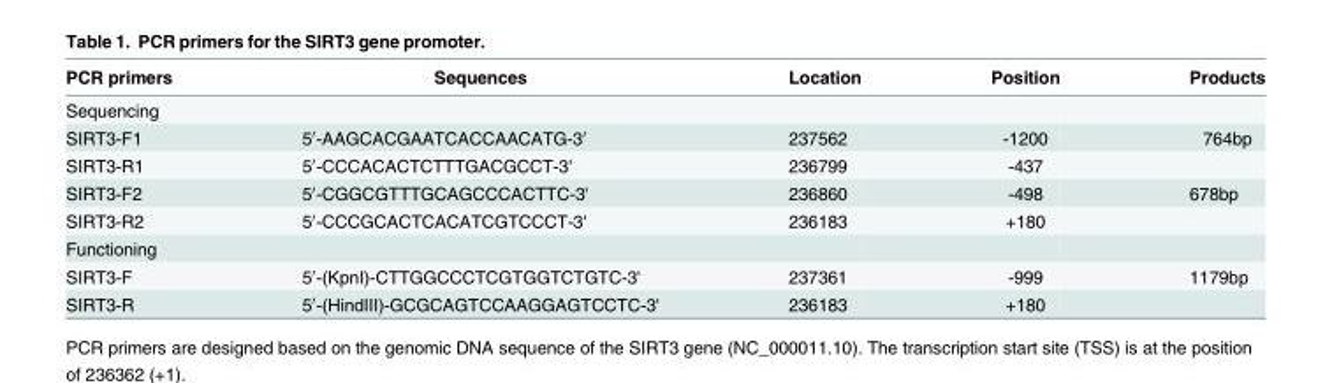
<table><thead><tr><td>PCR primers</td><td>Sequences</td><td>Location</td><td>Position</td><td>Products</td></tr></thead><tbody><tr><td colspan="5">Sequencing</td></tr><tr><td>SIRT3-F1</td><td>5′-AAGCACGAATCACCAACATG-3′</td><td>237562</td><td>-1200</td><td>764bp</td></tr><tr><td>SIRT3-R1</td><td>5′-CCCACACTCTTTGACGCCT-3&#x27;</td><td>236799</td><td>-437</td><td></td></tr><tr><td>SIRT3-F2</td><td>5′-CGGCGTTTGCAGCCCACTTC-3&#x27;</td><td>236860</td><td>-498</td><td>678bp</td></tr><tr><td>SIRT3-R2</td><td>5′-CCCGCACTCACATCGTCCCT-3&#x27;</td><td>236183</td><td>+180</td><td></td></tr><tr><td colspan="5">Functioning</td></tr><tr><td>SIRT3-F</td><td>5′-(KpnI)-CTTGGCCCTCGTGGTCTGTC-3&#x27;</td><td>237361</td><td>-999</td><td>1179bp</td></tr><tr><td>SIRT3-R</td><td>5′-(HindIII)-GCGCAGTCCAAGGAGTCCTC-3&#x27;</td><td>236183</td><td>+180</td><td></td></tr></tbody></table>